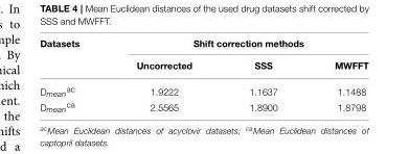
<table><thead><tr><td rowspan="2">Datasets</td><td colspan="3">Shift correction methods</td></tr><tr><td>Uncorrected</td><td>SSS</td><td>MWFFT</td></tr></thead><tbody><tr><td>Dmeanac</td><td>1.9222</td><td>1.1637</td><td>1.1488</td></tr><tr><td>Dmeanca</td><td>2.5565</td><td>1.8900</td><td>1.8798</td></tr></tbody></table>